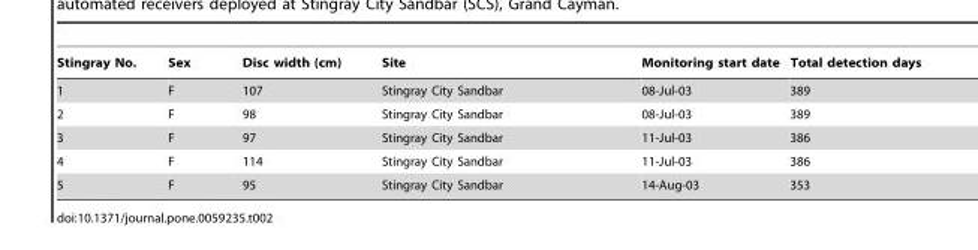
<table><thead><tr><td>Stingray No.</td><td>Sex</td><td>Disc width (cm)</td><td>Site</td><td>Monitoring start date</td><td>Total detection days</td></tr></thead><tbody><tr><td>1</td><td>F</td><td>107</td><td>Stingray City Sandbar</td><td>08-Jul-03</td><td>389</td></tr><tr><td>2</td><td>F</td><td>98</td><td>Stingray City Sandbar</td><td>08-Jul-03</td><td>389</td></tr><tr><td>3</td><td>F</td><td>97</td><td>Stingray City Sandbar</td><td>11-Jul-03</td><td>386</td></tr><tr><td>4</td><td>F</td><td>114</td><td>Stingray City Sandbar</td><td>11-Jul-03</td><td>386</td></tr><tr><td>5</td><td>F</td><td>95</td><td>Stingray City Sandbar</td><td>14-Aug-03</td><td>353</td></tr></tbody></table>